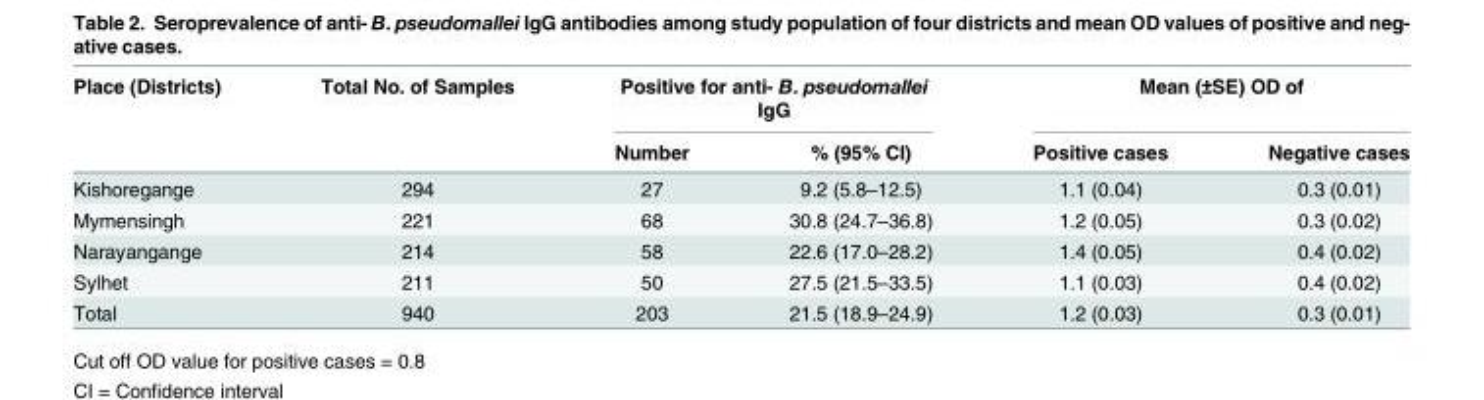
<table><thead><tr><td rowspan="2">Place (Districts)</td><td rowspan="2">Total No. of Samples</td><td colspan="2">Positive for anti- B. pseudomallei IgG</td><td colspan="2">Mean (±SE) OD of</td></tr><tr><td>Number</td><td>% (95% CI)</td><td>Positive cases</td><td>Negative cases</td></tr></thead><tbody><tr><td>Kishoregange</td><td>294</td><td>27</td><td>9.2 (5.8–12.5)</td><td>1.1 (0.04)</td><td>0.3 (0.01)</td></tr><tr><td>Mymensingh</td><td>221</td><td>68</td><td>30.8 (24.7–36.8)</td><td>1.2 (0.05)</td><td>0.3 (0.02)</td></tr><tr><td>Narayangange</td><td>214</td><td>58</td><td>22.6 (17.0–28.2)</td><td>1.4 (0.05)</td><td>0.4 (0.02)</td></tr><tr><td>Sylhet</td><td>211</td><td>50</td><td>27.5 (21.5–33.5)</td><td>1.1 (0.03)</td><td>0.4 (0.02)</td></tr><tr><td>Total</td><td>940</td><td>203</td><td>21.5 (18.9–24.9)</td><td>1.2 (0.03)</td><td>0.3 (0.01)</td></tr></tbody></table>